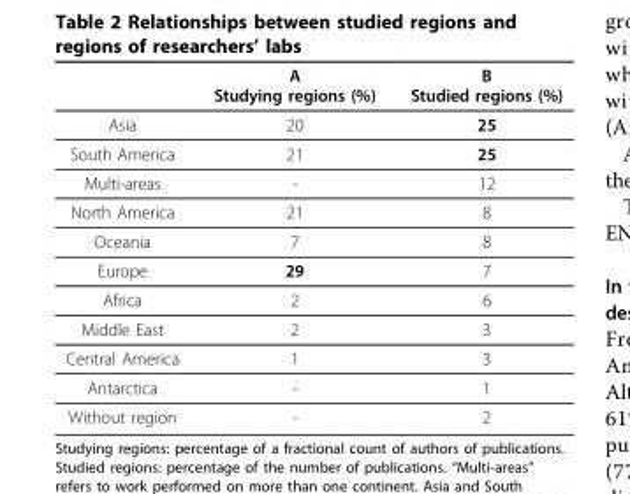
<table><thead><tr><td></td><td>A Studying regions (%)</td><td>B Studied regions (%)</td></tr></thead><tbody><tr><td>Asia</td><td>20</td><td>25</td></tr><tr><td>South America</td><td>21</td><td>25</td></tr><tr><td>Multi-areas</td><td>-</td><td>12</td></tr><tr><td>North America</td><td>21</td><td>8</td></tr><tr><td>Oceania</td><td>7</td><td>8</td></tr><tr><td>Europe</td><td>29</td><td>7</td></tr><tr><td>Africa</td><td>2</td><td>6</td></tr><tr><td>Middle East</td><td>2</td><td>3</td></tr><tr><td>Central America</td><td>1</td><td>3</td></tr><tr><td>Antarctica</td><td>-</td><td>1</td></tr><tr><td>Without region</td><td>-</td><td>2</td></tr></tbody></table>